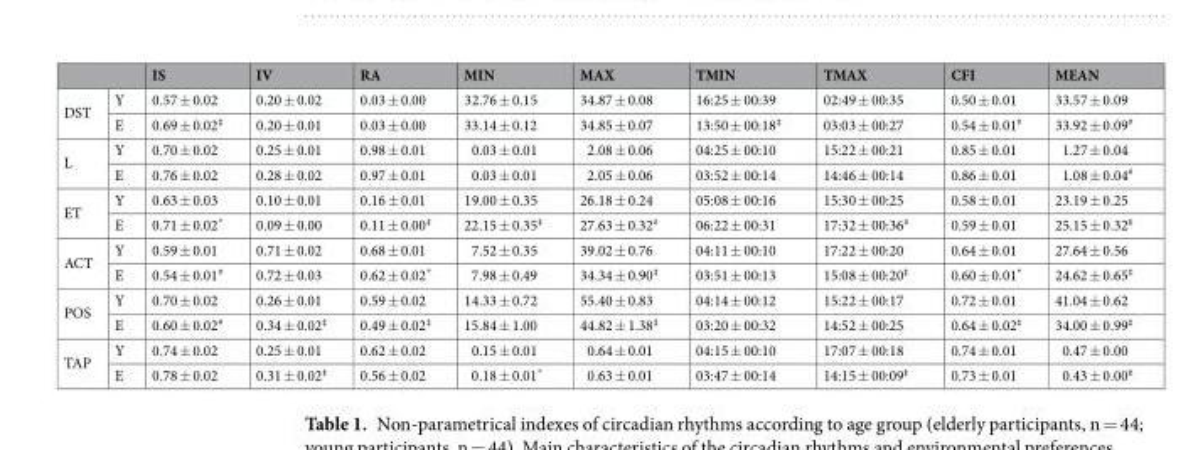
<table><thead><tr><td></td><td></td><td>IS</td><td>IV</td><td>RA</td><td>MIN</td><td>MAX</td><td>TMIN</td><td>TMAX</td><td>CFI</td><td>MEAN</td></tr></thead><tbody><tr><td rowspan="2">DST</td><td>Y</td><td>0.57 ± 0.02</td><td>0.20 ± 0.02</td><td>0.03 ± 0.00</td><td>32.76 ± 0.15</td><td>34.87 ± 0.08</td><td>16:25 ± 00:39</td><td>02:49 ± 00:35</td><td>0.50 ± 0.01</td><td>33.57 ± 0.09</td></tr><tr><td>E</td><td>0.69 ± 0.02<sup>‡</sup></td><td>0.20 ± 0.01</td><td>0.03 ± 0.00</td><td>33.14 ± 0.12</td><td>34.85 ± 0.07</td><td>13:50 ± 00:18<sup>‡</sup></td><td>03:03 ± 00:27</td><td>0.54 ± 0.01<sup>#</sup></td><td>33.92 ± 0.09<sup>#</sup></td></tr><tr><td rowspan="2">L</td><td>Y</td><td>0.70 ± 0.02</td><td>0.25 ± 0.01</td><td>0.98 ± 0.01</td><td>0.03 ± 0.01</td><td>2.08 ± 0.06</td><td>04:25 ± 00:10</td><td>15:22 ± 00:21</td><td>0.85 ± 0.01</td><td>1.27 ± 0.04</td></tr><tr><td>E</td><td>0.76 ± 0.02</td><td>0.28 ± 0.02</td><td>0.97 ± 0.01</td><td>0.03 ± 0.01</td><td>2.05 ± 0.06</td><td>03:52 ± 00:14</td><td>14:46 ± 00:14</td><td>0.86 ± 0.01</td><td>1.08 ± 0.04<sup>#</sup></td></tr><tr><td rowspan="2">ET</td><td>Y</td><td>0.63 ± 0.03</td><td>0.10 ± 0.01</td><td>0.16 ± 0.01</td><td>19.00 ± 0.35</td><td>26.18 ± 0.24</td><td>05:08 ± 00:16</td><td>15:30 ± 00:25</td><td>0.58 ± 0.01</td><td>23.19 ± 0.25</td></tr><tr><td>E</td><td>0.71 ± 0.02*</td><td>0.09 ± 0.00</td><td>0.11 ± 0.00<sup>‡</sup></td><td>22.15 ± 0.35<sup>‡</sup></td><td>27.63 ± 0.32<sup>#</sup></td><td>06:22 ± 00:31</td><td>17:32 ± 00:36<sup>#</sup></td><td>0.59 ± 0.01</td><td>25.15 ± 0.32<sup>‡</sup></td></tr><tr><td rowspan="2">ACT</td><td>Y</td><td>0.59 ± 0.01</td><td>0.71 ± 0.02</td><td>0.68 ± 0.01</td><td>7.52 ± 0.35</td><td>39.02 ± 0.76</td><td>04:11 ± 00:10</td><td>17:22 ± 00:20</td><td>0.64 ± 0.01</td><td>27.64 ± 0.56</td></tr><tr><td>E</td><td>0.54 ± 0.01<sup>#</sup></td><td>0.72 ± 0.03</td><td>0.62 ± 0.02*</td><td>7.98 ± 0.49</td><td>34.34 ± 0.90<sup>‡</sup></td><td>03:51 ± 00:13</td><td>15:08 ± 00:20<sup>‡</sup></td><td>0.60 ± 0.01*</td><td>24.62 ± 0.65<sup>‡</sup></td></tr><tr><td rowspan="2">POS</td><td>Y</td><td>0.70 ± 0.02</td><td>0.26 ± 0.01</td><td>0.59 ± 0.02</td><td>14.33 ± 0.72</td><td>55.40 ± 0.83</td><td>04:14 ± 00:12</td><td>15:22 ± 00:17</td><td>0.72 ± 0.01</td><td>41.04 ± 0.62</td></tr><tr><td>E</td><td>0.60 ± 0.02<sup>#</sup></td><td>0.34 ± 0.02<sup>‡</sup></td><td>0.49 ± 0.02<sup>‡</sup></td><td>15.84 ± 1.00</td><td>44.82 ± 1.38<sup>‡</sup></td><td>03:20 ± 00:32</td><td>14:52 ± 00:25</td><td>0.64 ± 0.02<sup>‡</sup></td><td>34.00 ± 0.99<sup>‡</sup></td></tr><tr><td rowspan="2">TAP</td><td>Y</td><td>0.74 ± 0.02</td><td>0.25 ± 0.01</td><td>0.62 ± 0.02</td><td>0.15 ± 0.01</td><td>0.64 ± 0.01</td><td>04:15 ± 00:10</td><td>17:07 ± 00:18</td><td>0.74 ± 0.01</td><td>0.47 ± 0.00</td></tr><tr><td>E</td><td>0.78 ± 0.02</td><td>0.31 ± 0.02<sup>‡</sup></td><td>0.56 ± 0.02</td><td>0.18 ± 0.01*</td><td>0.63 ± 0.01</td><td>03:47 ± 00:14</td><td>14:15 ± 00:09<sup>‡</sup></td><td>0.73 ± 0.01</td><td>0.43 ± 0.00<sup>‡</sup></td></tr></tbody></table>